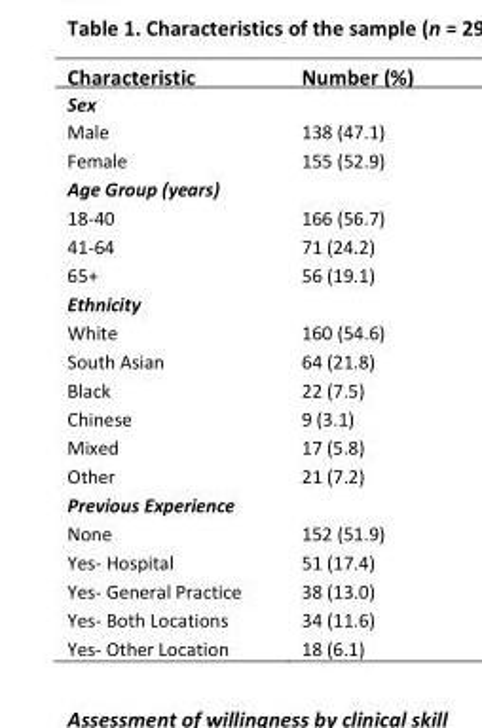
<table><thead><tr><td>Characteristic</td><td>Number (%)</td></tr></thead><tbody><tr><td colspan="2">Sex</td></tr><tr><td>Male</td><td>138 (47.1)</td></tr><tr><td>Female</td><td>155 (52.9)</td></tr><tr><td colspan="2">Age Group (years)</td></tr><tr><td>18-40</td><td>166 (56.7)</td></tr><tr><td>41-64</td><td>71 (24.2)</td></tr><tr><td>65+</td><td>56 (19.1)</td></tr><tr><td colspan="2">Ethnicity</td></tr><tr><td>White</td><td>160 (54.6)</td></tr><tr><td>South Asian</td><td>64 (21.8)</td></tr><tr><td>Black</td><td>22 (7.5)</td></tr><tr><td>Chinese</td><td>9 (3.1)</td></tr><tr><td>Mixed</td><td>17 (5.8)</td></tr><tr><td>Other</td><td>21 (7.2)</td></tr><tr><td colspan="2">Previous Experience</td></tr><tr><td>None</td><td>152 (51.9)</td></tr><tr><td>Yes- Hospital</td><td>51 (17.4)</td></tr><tr><td>Yes- General Practice</td><td>38 (13.0)</td></tr><tr><td>Yes- Both Locations</td><td>34 (11.6)</td></tr><tr><td>Yes- Other Location</td><td>18 (6.1)</td></tr></tbody></table>